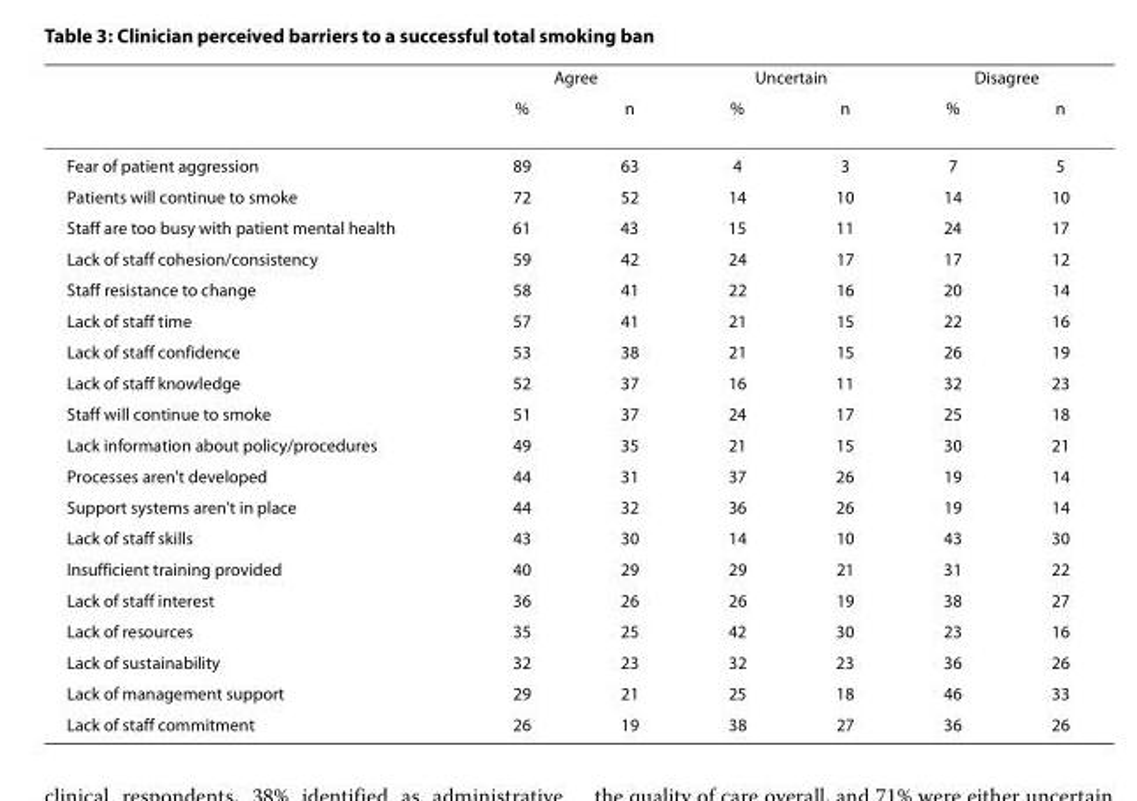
<table><thead><tr><td rowspan="2"></td><td colspan="2">Agree</td><td colspan="2">Uncertain</td><td colspan="2">Disagree</td></tr><tr><td>%</td><td>n</td><td>%</td><td>n</td><td>%</td><td>n</td></tr></thead><tbody><tr><td>Fear of patient aggression</td><td>89</td><td>63</td><td>4</td><td>3</td><td>7</td><td>5</td></tr><tr><td>Patients will continue to smoke</td><td>72</td><td>52</td><td>14</td><td>10</td><td>14</td><td>10</td></tr><tr><td>Staff are too busy with patient mental health</td><td>61</td><td>43</td><td>15</td><td>11</td><td>24</td><td>17</td></tr><tr><td>Lack of staff cohesion/consistency</td><td>59</td><td>42</td><td>24</td><td>17</td><td>17</td><td>12</td></tr><tr><td>Staff resistance to change</td><td>58</td><td>41</td><td>22</td><td>16</td><td>20</td><td>14</td></tr><tr><td>Lack of staff time</td><td>57</td><td>41</td><td>21</td><td>15</td><td>22</td><td>16</td></tr><tr><td>Lack of staff confidence</td><td>53</td><td>38</td><td>21</td><td>15</td><td>26</td><td>19</td></tr><tr><td>Lack of staff knowledge</td><td>52</td><td>37</td><td>16</td><td>11</td><td>32</td><td>23</td></tr><tr><td>Staff will continue to smoke</td><td>51</td><td>37</td><td>24</td><td>17</td><td>25</td><td>18</td></tr><tr><td>Lack information about policy/procedures</td><td>49</td><td>35</td><td>21</td><td>15</td><td>30</td><td>21</td></tr><tr><td>Processes aren&#x27;t developed</td><td>44</td><td>31</td><td>37</td><td>26</td><td>19</td><td>14</td></tr><tr><td>Support systems aren&#x27;t in place</td><td>44</td><td>32</td><td>36</td><td>26</td><td>19</td><td>14</td></tr><tr><td>Lack of staff skills</td><td>43</td><td>30</td><td>14</td><td>10</td><td>43</td><td>30</td></tr><tr><td>Insufficient training provided</td><td>40</td><td>29</td><td>29</td><td>21</td><td>31</td><td>22</td></tr><tr><td>Lack of staff interest</td><td>36</td><td>26</td><td>26</td><td>19</td><td>38</td><td>27</td></tr><tr><td>Lack of resources</td><td>35</td><td>25</td><td>42</td><td>30</td><td>23</td><td>16</td></tr><tr><td>Lack of sustainability</td><td>32</td><td>23</td><td>32</td><td>23</td><td>36</td><td>26</td></tr><tr><td>Lack of management support</td><td>29</td><td>21</td><td>25</td><td>18</td><td>46</td><td>33</td></tr><tr><td>Lack of staff commitment</td><td>26</td><td>19</td><td>38</td><td>27</td><td>36</td><td>26</td></tr></tbody></table>